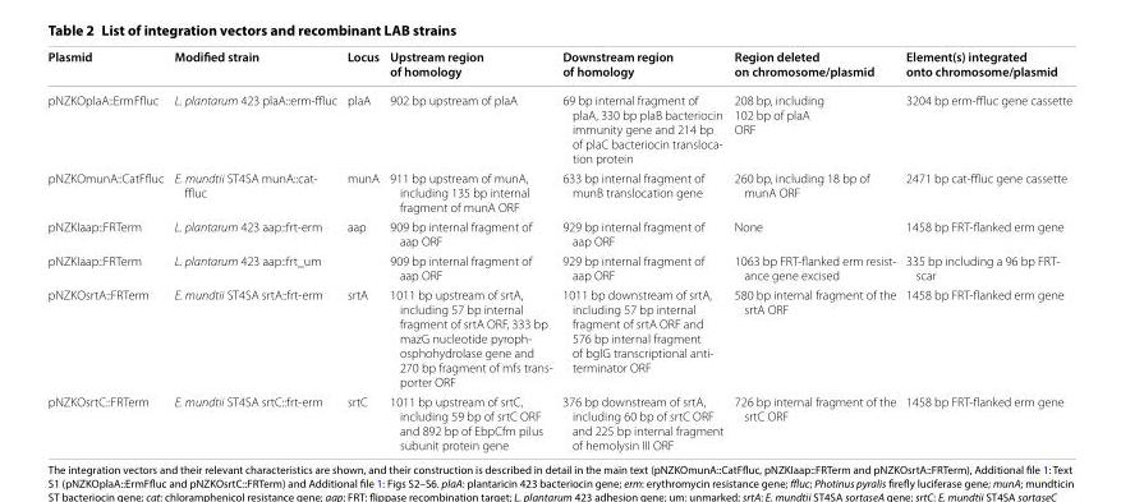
<table><thead><tr><td>Plasmid</td><td>Modified strain</td><td>Locus</td><td>Upstream region of homology</td><td>Downstream region of homology</td><td>Region deleted on chromosome/plasmid</td><td>Element(s) integrated onto chromosome/plasmid</td></tr></thead><tbody><tr><td>pNZKOplaA::ErmFfluc</td><td>L. plantarum 423 plaA::erm-ffluc</td><td>plaA</td><td>902 bp upstream of plaA</td><td>69 bp internal fragment of plaA, 330 bp plaB bacteriocin immunity gene and 214 bp of plaC bacteriocin transloca- tion protein</td><td>208 bp, including 102 bp of plaA ORF</td><td>3204 bp erm-ffluc gene cassette</td></tr><tr><td>pNZKOmunA::CatFfluc</td><td>E. mundtii ST4SA munA::cat- ffluc</td><td>munA</td><td>911 bp upstream of munA, including 135 bp internal fragment of munA ORF</td><td>633 bp internal fragment of munB translocation gene</td><td>260 bp, including 18 bp of munA ORF</td><td>2471 bp cat-ffluc gene cassette</td></tr><tr><td>pNZKIaap::FRTerm</td><td>L. plantarum 423 aap::frt-erm</td><td>aap</td><td>909 bp internal fragment of aap ORF</td><td>929 bp internal fragment of aap ORF</td><td>None</td><td>1458 bp FRT-flanked erm gene</td></tr><tr><td>pNZKIaap::FRTerm</td><td>L. plantarum 423 aap::frt_um</td><td></td><td>909 bp internal fragment of aap ORF</td><td>929 bp internal fragment of aap ORF</td><td>1063 bp FRT-flanked erm resist- ance gene excised</td><td>335 bp including a 96 bp FRT- scar</td></tr><tr><td>pNZKOsrtA::FRTerm</td><td>E. mundtii ST4SA srtA::frt-erm</td><td>srtA</td><td>1011 bp upstream of srtA, including 57 bp internal fragment of srtA ORF, 333 bp mazG nucleotide pyroph- osphohydrolase gene and 270 bp fragment of mfs trans- porter ORF</td><td>1011 bp downstream of srtA, including 57 bp internal fragment of srtA ORF and 576 bp internal fragment of bglG transcriptional anti- terminator ORF</td><td>580 bp internal fragment of the srtA ORF</td><td>1458 bp FRT-flanked erm gene</td></tr><tr><td>pNZKOsrtC::FRTerm</td><td>E. mundtii ST4SA srtC::frt-erm</td><td>srtC</td><td>1011 bp upstream of srtC, including 59 bp of srtC ORF and 892 bp of EbpCfm pilus subunit protein gene</td><td>376 bp downstream of srtA, including 60 bp of srtC ORF and 225 bp internal fragment of hemolysin III ORF</td><td>726 bp internal fragment of the srtC ORF</td><td>1458 bp FRT-flanked erm gene</td></tr></tbody></table>